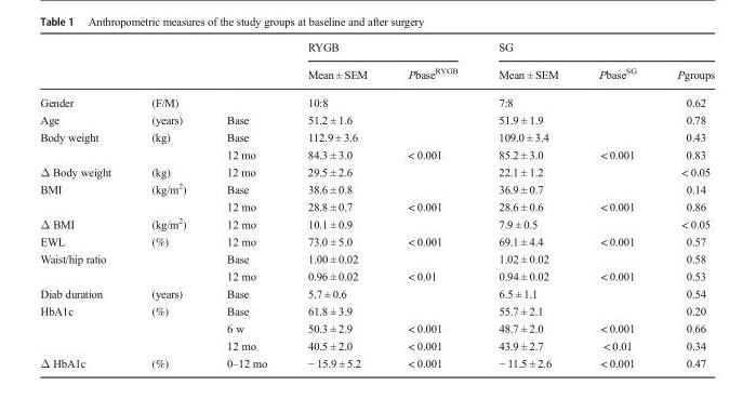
<table><thead><tr><td rowspan="2"></td><td rowspan="2"></td><td rowspan="2"></td><td colspan="2">RYGB</td><td colspan="3">SG</td></tr><tr><td>Mean ± SEM</td><td>Pbase<sup>RYGB</sup></td><td>Mean ± SEM</td><td>Pbase<sup>SG</sup></td><td>Pgroups</td></tr></thead><tbody><tr><td>Gender</td><td>(F/M)</td><td></td><td>10:8</td><td></td><td>7:8</td><td></td><td>0.62</td></tr><tr><td>Age</td><td>(years)</td><td>Base</td><td>51.2 ± 1.6</td><td></td><td>51.9 ± 1.9</td><td></td><td>0.78</td></tr><tr><td rowspan="2">Body weight</td><td>(kg)</td><td>Base</td><td>112.9 ± 3.6</td><td></td><td>109.0 ± 3.4</td><td></td><td>0.43</td></tr><tr><td></td><td>12 mo</td><td>84.3 ± 3.0</td><td>&lt; 0.001</td><td>85.2 ± 3.0</td><td>&lt; 0.001</td><td>0.83</td></tr><tr><td>Δ Body weight</td><td>(kg)</td><td>12 mo</td><td>29.5 ± 2.6</td><td></td><td>22.1 ± 1.2</td><td></td><td>&lt; 0.05</td></tr><tr><td rowspan="2">BMI</td><td>(kg/m<sup>2</sup>)</td><td>Base</td><td>38.6 ± 0.8</td><td></td><td>36.9 ± 0.7</td><td></td><td>0.14</td></tr><tr><td></td><td>12 mo</td><td>28.8 ± 0.7</td><td>&lt; 0.001</td><td>28.6 ± 0.6</td><td>&lt; 0.001</td><td>0.86</td></tr><tr><td>Δ BMI</td><td>(kg/m<sup>2</sup>)</td><td>12 mo</td><td>10.1 ± 0.9</td><td></td><td>7.9 ± 0.5</td><td></td><td>&lt; 0.05</td></tr><tr><td>EWL</td><td>(%)</td><td>12 mo</td><td>73.0 ± 5.0</td><td>&lt; 0.001</td><td>69.1 ± 4.4</td><td>&lt; 0.001</td><td>0.57</td></tr><tr><td rowspan="2">Waist/hip ratio</td><td></td><td>Base</td><td>1.00 ± 0.02</td><td></td><td>1.02 ± 0.02</td><td></td><td>0.58</td></tr><tr><td></td><td>12 mo</td><td>0.96 ± 0.02</td><td>&lt; 0.01</td><td>0.94 ± 0.02</td><td>&lt; 0.001</td><td>0.53</td></tr><tr><td>Diab duration</td><td>(years)</td><td>Base</td><td>5.7 ± 0.6</td><td></td><td>6.5 ± 1.1</td><td></td><td>0.54</td></tr><tr><td rowspan="3">HbA1c</td><td>(%)</td><td>Base</td><td>61.8 ± 3.9</td><td></td><td>55.7 ± 2.1</td><td></td><td>0.20</td></tr><tr><td></td><td>6 w</td><td>50.3 ± 2.9</td><td>&lt; 0.001</td><td>48.7 ± 2.0</td><td>&lt; 0.001</td><td>0.66</td></tr><tr><td></td><td>12 mo</td><td>40.5 ± 2.0</td><td>&lt; 0.001</td><td>43.9 ± 2.7</td><td>&lt; 0.01</td><td>0.34</td></tr><tr><td>Δ HbA1c</td><td>(%)</td><td>0–12 mo</td><td>− 15.9 ± 5.2</td><td>&lt; 0.001</td><td>− 11.5 ± 2.6</td><td>&lt; 0.001</td><td>0.47</td></tr></tbody></table>